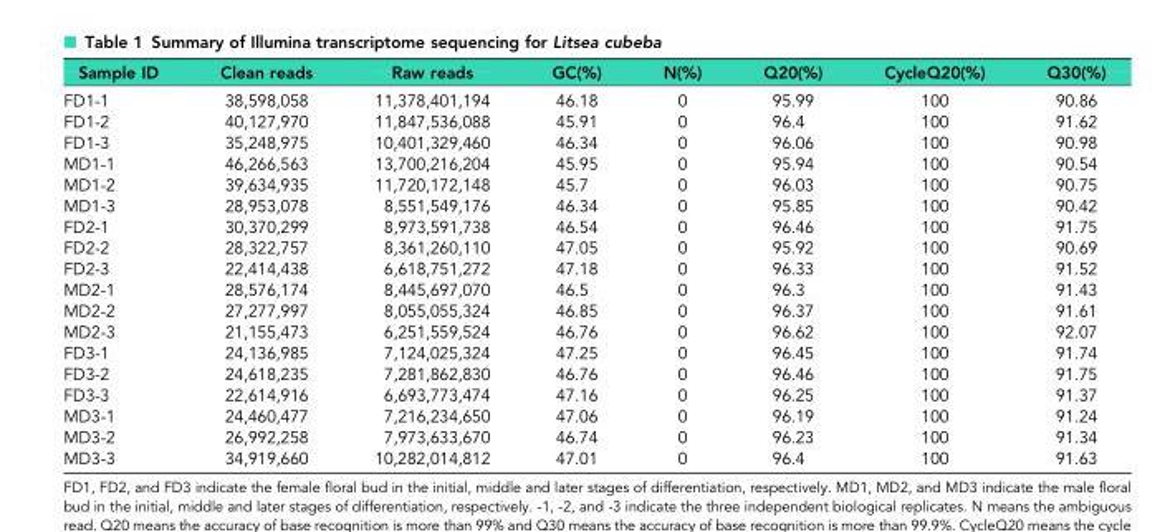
<table><thead><tr><td>Sample ID</td><td>Clean reads</td><td>Raw reads</td><td>GC(%)</td><td>N(%)</td><td>Q20(%)</td><td>CycleQ20(%)</td><td>Q30(%)</td></tr></thead><tbody><tr><td>FD1-1</td><td>38,598,058</td><td>11,378,401,194</td><td>46.18</td><td>0</td><td>95.99</td><td>100</td><td>90.86</td></tr><tr><td>FD1-2</td><td>40,127,970</td><td>11,847,536,088</td><td>45.91</td><td>0</td><td>96.4</td><td>100</td><td>91.62</td></tr><tr><td>FD1-3</td><td>35,248,975</td><td>10,401,329,460</td><td>46.34</td><td>0</td><td>96.06</td><td>100</td><td>90.98</td></tr><tr><td>MD1-1</td><td>46,266,563</td><td>13,700,216,204</td><td>45.95</td><td>0</td><td>95.94</td><td>100</td><td>90.54</td></tr><tr><td>MD1-2</td><td>39,634,935</td><td>11,720,172,148</td><td>45.7</td><td>0</td><td>96.03</td><td>100</td><td>90.75</td></tr><tr><td>MD1-3</td><td>28,953,078</td><td>8,551,549,176</td><td>46.34</td><td>0</td><td>95.85</td><td>100</td><td>90.42</td></tr><tr><td>FD2-1</td><td>30,370,299</td><td>8,973,591,738</td><td>46.54</td><td>0</td><td>96.46</td><td>100</td><td>91.75</td></tr><tr><td>FD2-2</td><td>28,322,757</td><td>8,361,260,110</td><td>47.05</td><td>0</td><td>95.92</td><td>100</td><td>90.69</td></tr><tr><td>FD2-3</td><td>22,414,438</td><td>6,618,751,272</td><td>47.18</td><td>0</td><td>96.33</td><td>100</td><td>91.52</td></tr><tr><td>MD2-1</td><td>28,576,174</td><td>8,445,697,070</td><td>46.5</td><td>0</td><td>96.3</td><td>100</td><td>91.43</td></tr><tr><td>MD2-2</td><td>27,277,997</td><td>8,055,055,324</td><td>46.85</td><td>0</td><td>96.37</td><td>100</td><td>91.61</td></tr><tr><td>MD2-3</td><td>21,155,473</td><td>6,251,559,524</td><td>46.76</td><td>0</td><td>96.62</td><td>100</td><td>92.07</td></tr><tr><td>FD3-1</td><td>24,136,985</td><td>7,124,025,324</td><td>47.25</td><td>0</td><td>96.45</td><td>100</td><td>91.74</td></tr><tr><td>FD3-2</td><td>24,618,235</td><td>7,281,862,830</td><td>46.76</td><td>0</td><td>96.46</td><td>100</td><td>91.75</td></tr><tr><td>FD3-3</td><td>22,614,916</td><td>6,693,773,474</td><td>47.16</td><td>0</td><td>96.25</td><td>100</td><td>91.37</td></tr><tr><td>MD3-1</td><td>24,460,477</td><td>7,216,234,650</td><td>47.06</td><td>0</td><td>96.19</td><td>100</td><td>91.24</td></tr><tr><td>MD3-2</td><td>26,992,258</td><td>7,973,633,670</td><td>46.74</td><td>0</td><td>96.23</td><td>100</td><td>91.34</td></tr><tr><td>MD3-3</td><td>34,919,660</td><td>10,282,014,812</td><td>47.01</td><td>0</td><td>96.4</td><td>100</td><td>91.63</td></tr></tbody></table>